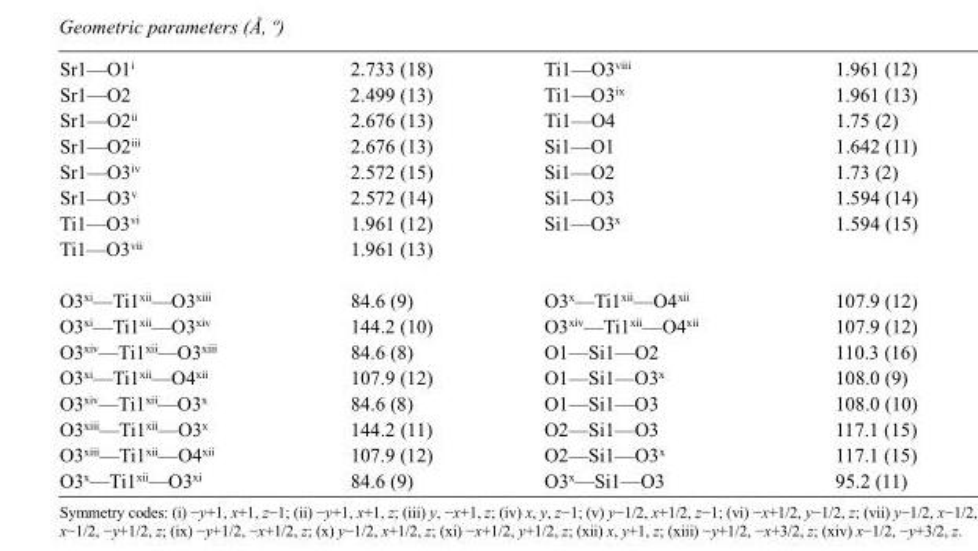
<table><tbody><tr><td>Sr1—O1<sup>i</sup></td><td>2.733 (18)</td><td>Ti1—O3<sup>viii</sup></td><td>1.961 (12)</td></tr><tr><td>Sr1—O2</td><td>2.499 (13)</td><td>Ti1—O3<sup>ix</sup></td><td>1.961 (13)</td></tr><tr><td>Sr1—O2<sup>ii</sup></td><td>2.676 (13)</td><td>Ti1—O4</td><td>1.75 (2)</td></tr><tr><td>Sr1—O2<sup>iii</sup></td><td>2.676 (13)</td><td>Si1—O1</td><td>1.642 (11)</td></tr><tr><td>Sr1—O3<sup>iv</sup></td><td>2.572 (15)</td><td>Si1—O2</td><td>1.73 (2)</td></tr><tr><td>Sr1—O3<sup>v</sup></td><td>2.572 (14)</td><td>Si1—O3</td><td>1.594 (14)</td></tr><tr><td>Ti1—O3<sup>vi</sup></td><td>1.961 (12)</td><td>Si1—O3<sup>x</sup></td><td>1.594 (15)</td></tr><tr><td>Ti1—O3<sup>vii</sup></td><td>1.961 (13)</td><td></td><td></td></tr><tr><td>O3<sup>xi</sup>—Ti1<sup>xii</sup>—O3<sup>xiii</sup></td><td>84.6 (9)</td><td>O3<sup>x</sup>—Ti1<sup>xii</sup>—O4<sup>xii</sup></td><td>107.9 (12)</td></tr><tr><td>O3<sup>xi</sup>—Ti1<sup>xii</sup>—O3<sup>xiv</sup></td><td>144.2 (10)</td><td>O3<sup>xiv</sup>—Ti1<sup>xii</sup>—O4<sup>xii</sup></td><td>107.9 (12)</td></tr><tr><td>O3<sup>xiv</sup>—Ti1<sup>xii</sup>—O3<sup>xiii</sup></td><td>84.6 (8)</td><td>O1—Si1—O2</td><td>110.3 (16)</td></tr><tr><td>O3<sup>xi</sup>—Ti1<sup>xii</sup>—O4<sup>xii</sup></td><td>107.9 (12)</td><td>O1—Si1—O3<sup>x</sup></td><td>108.0 (9)</td></tr><tr><td>O3<sup>xiv</sup>—Ti1<sup>xii</sup>—O3<sup>x</sup></td><td>84.6 (8)</td><td>O1—Si1—O3</td><td>108.0 (10)</td></tr><tr><td>O3<sup>xiii</sup>—Ti1<sup>xii</sup>—O3<sup>x</sup></td><td>144.2 (11)</td><td>O2—Si1—O3</td><td>117.1 (15)</td></tr><tr><td>O3<sup>xiii</sup>—Ti1<sup>xii</sup>—O4<sup>xii</sup></td><td>107.9 (12)</td><td>O2—Si1—O3<sup>x</sup></td><td>117.1 (15)</td></tr><tr><td>O3<sup>x</sup>—Ti1<sup>xii</sup>—O3<sup>xi</sup></td><td>84.6 (9)</td><td>O3<sup>x</sup>—Si1—O3</td><td>95.2 (11)</td></tr></tbody></table>